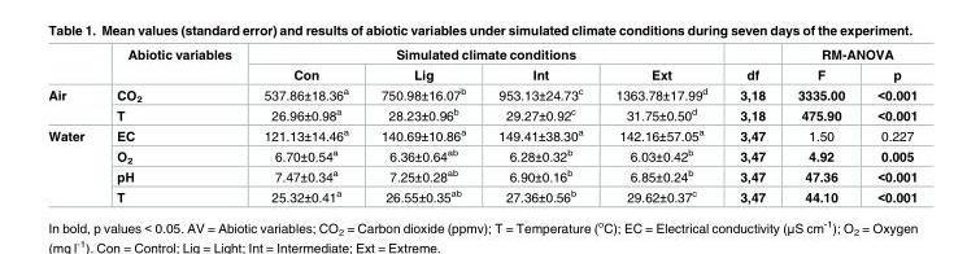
<table><thead><tr><td rowspan="2"></td><td rowspan="2">Abiotic variables</td><td colspan="4">Simulated climate conditions</td><td rowspan="2">df</td><td colspan="2">RM-ANOVA</td></tr><tr><td>Con</td><td>Lig</td><td>Int</td><td>Ext</td><td>F</td><td>p</td></tr></thead><tbody><tr><td rowspan="2">Air</td><td>CO<sub>2</sub></td><td>537.86±18.36<sup>a</sup></td><td>750.98±16.07<sup>b</sup></td><td>953.13±24.73<sup>c</sup></td><td>1363.78±17.99<sup>d</sup></td><td>3,18</td><td>3335.00</td><td>&lt;0.001</td></tr><tr><td>T</td><td>26.96±0.98<sup>a</sup></td><td>28.23±0.96<sup>b</sup></td><td>29.27±0.92<sup>c</sup></td><td>31.75±0.50<sup>d</sup></td><td>3,18</td><td>475.90</td><td>&lt;0.001</td></tr><tr><td rowspan="4">Water</td><td>EC</td><td>121.13±14.46<sup>a</sup></td><td>140.69±10.86<sup>a</sup></td><td>149.41±38.30<sup>a</sup></td><td>142.16±57.05<sup>a</sup></td><td>3,47</td><td>1.50</td><td>0.227</td></tr><tr><td>O<sub>2</sub></td><td>6.70±0.54<sup>a</sup></td><td>6.36±0.64<sup>ab</sup></td><td>6.28±0.32<sup>b</sup></td><td>6.03±0.42<sup>b</sup></td><td>3,47</td><td>4.92</td><td>0.005</td></tr><tr><td>pH</td><td>7.47±0.34<sup>a</sup></td><td>7.25±0.28<sup>ab</sup></td><td>6.90±0.16<sup>b</sup></td><td>6.85±0.24<sup>b</sup></td><td>3,47</td><td>47.36</td><td>&lt;0.001</td></tr><tr><td>T</td><td>25.32±0.41<sup>a</sup></td><td>26.55±0.35<sup>ab</sup></td><td>27.36±0.56<sup>b</sup></td><td>29.62±0.37<sup>c</sup></td><td>3,47</td><td>44.10</td><td>&lt;0.001</td></tr></tbody></table>